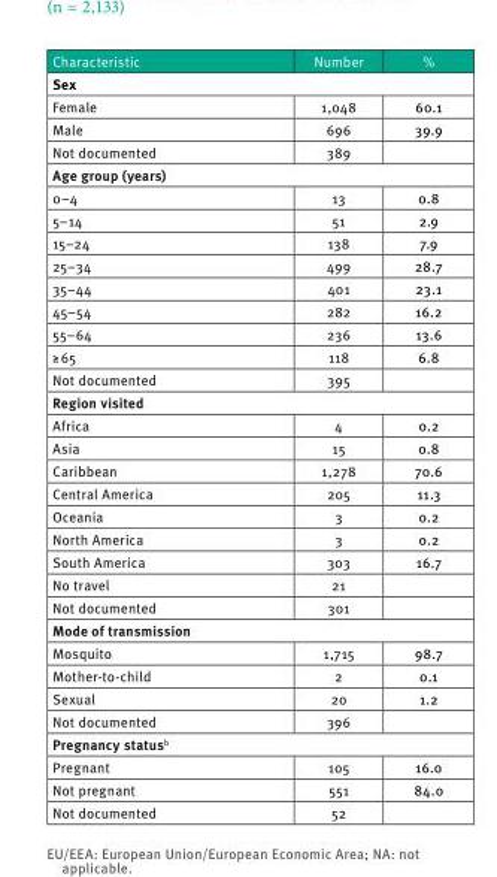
<table><thead><tr><td>Characteristic</td><td>Number</td><td>%</td></tr></thead><tbody><tr><td colspan="3">Sex</td></tr><tr><td>Female</td><td>1,048</td><td>60.1</td></tr><tr><td>Male</td><td>696</td><td>39.9</td></tr><tr><td>Not documented</td><td>389</td><td></td></tr><tr><td colspan="3">Age group (years)</td></tr><tr><td>0–4</td><td>13</td><td>0.8</td></tr><tr><td>5–14</td><td>51</td><td>2.9</td></tr><tr><td>15–24</td><td>138</td><td>7.9</td></tr><tr><td>25–34</td><td>499</td><td>28.7</td></tr><tr><td>35–44</td><td>401</td><td>23.1</td></tr><tr><td>45–54</td><td>282</td><td>16.2</td></tr><tr><td>55–64</td><td>236</td><td>13.6</td></tr><tr><td>≥ 65</td><td>118</td><td>6.8</td></tr><tr><td>Not documented</td><td>395</td><td></td></tr><tr><td colspan="3">Region visited</td></tr><tr><td>Africa</td><td>4</td><td>0.2</td></tr><tr><td>Asia</td><td>15</td><td>0.8</td></tr><tr><td>Caribbean</td><td>1,278</td><td>70.6</td></tr><tr><td>Central America</td><td>205</td><td>11.3</td></tr><tr><td>Oceania</td><td>3</td><td>0.2</td></tr><tr><td>North America</td><td>3</td><td>0.2</td></tr><tr><td>South America</td><td>303</td><td>16.7</td></tr><tr><td>No travel</td><td>21</td><td></td></tr><tr><td>Not documented</td><td>301</td><td></td></tr><tr><td colspan="3">Mode of transmission</td></tr><tr><td>Mosquito</td><td>1,715</td><td>98.7</td></tr><tr><td>Mother-to-child</td><td>2</td><td>0.1</td></tr><tr><td>Sexual</td><td>20</td><td>1.2</td></tr><tr><td>Not documented</td><td>396</td><td></td></tr><tr><td colspan="3">Pregnancy status<sup>b</sup></td></tr><tr><td>Pregnant</td><td>105</td><td>16.0</td></tr><tr><td>Not pregnant</td><td>551</td><td>84.0</td></tr><tr><td>Not documented</td><td>52</td><td></td></tr></tbody></table>